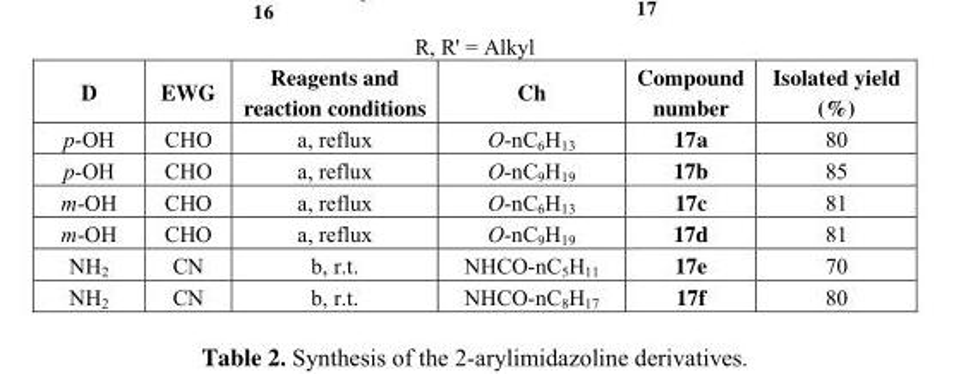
<table><thead><tr><td>D</td><td>EWG</td><td>Reagents and reaction conditions</td><td>Ch</td><td>Compound number</td><td>Isolated yield (%)</td></tr></thead><tbody><tr><td>p-OH</td><td>CHO</td><td>a, reflux</td><td>O-nC<sub>6</sub>H<sub>13</sub></td><td>17a</td><td>80</td></tr><tr><td>p-OH</td><td>CHO</td><td>a, reflux</td><td>O-nC<sub>9</sub>H<sub>19</sub></td><td>17b</td><td>85</td></tr><tr><td>m-OH</td><td>CHO</td><td>a, reflux</td><td>O-nC<sub>6</sub>H<sub>13</sub></td><td>17c</td><td>81</td></tr><tr><td>m-OH</td><td>CHO</td><td>a, reflux</td><td>O-nC<sub>9</sub>H<sub>19</sub></td><td>17d</td><td>81</td></tr><tr><td>NH<sub>2</sub></td><td>CN</td><td>b, r.t.</td><td>NHCO-nC<sub>5</sub>H<sub>11</sub></td><td>17e</td><td>70</td></tr><tr><td>NH<sub>2</sub></td><td>CN</td><td>b, r.t.</td><td>NHCO-nC<sub>8</sub>H<sub>17</sub></td><td>17f</td><td>80</td></tr></tbody></table>